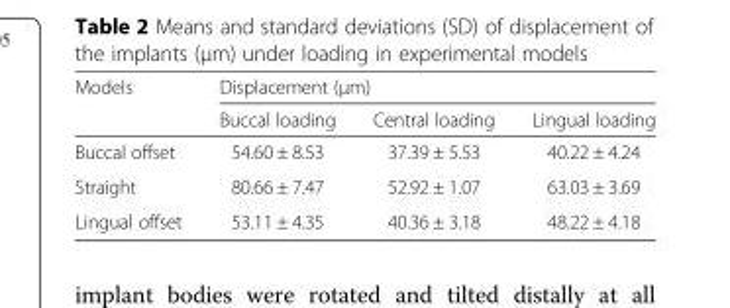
<table><thead><tr><td rowspan="2">Models</td><td colspan="3">Displacement (μm)</td></tr><tr><td>Buccal loading</td><td>Central loading</td><td>Lingual loading</td></tr></thead><tbody><tr><td>Buccal offset</td><td>54.60 ± 8.53</td><td>37.39 ± 5.53</td><td>40.22 ± 4.24</td></tr><tr><td>Straight</td><td>80.66 ± 7.47</td><td>52.92 ± 1.07</td><td>63.03 ± 3.69</td></tr><tr><td>Lingual offset</td><td>53.11 ± 4.35</td><td>40.36 ± 3.18</td><td>48.22 ± 4.18</td></tr></tbody></table>